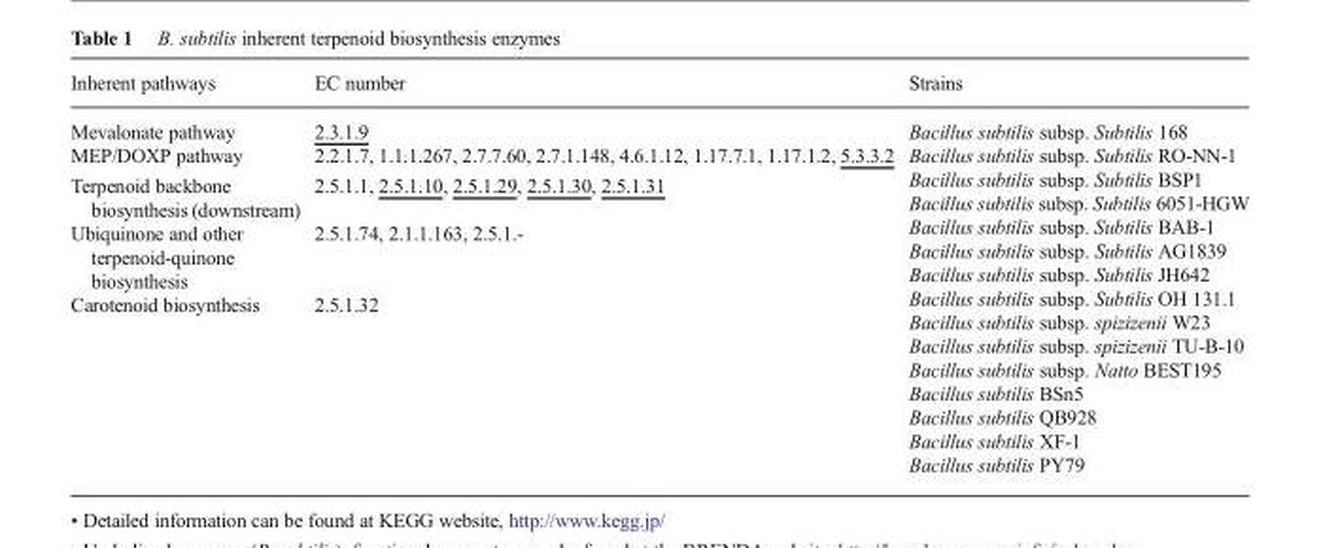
<table><thead><tr><td>Inherent pathways</td><td>EC number</td><td>Strains</td></tr></thead><tbody><tr><td>Mevalonate pathway</td><td>2.3.1.9</td><td rowspan="5">Bacillus subtilis subsp. Subtilis 168 Bacillus subtilis subsp. Subtilis RO-NN-1 Bacillus subtilis subsp. Subtilis BSP1 Bacillus subtilis subsp. Subtilis 6051-HGW Bacillus subtilis subsp. Subtilis BAB-1 Bacillus subtilis subsp. Subtilis AG1839 Bacillus subtilis subsp. Subtilis JH642 Bacillus subtilis subsp. Subtilis OH 131.1 Bacillus subtilis subsp. spizizenii W23 Bacillus subtilis subsp. spizizenii TU-B-10 Bacillus subtilis subsp. Natto BEST195 Bacillus subtilis BSn5 Bacillus subtilis QB928 Bacillus subtilis XF-1 Bacillus subtilis PY79</td></tr><tr><td>MEP/DOXP pathway</td><td>2.2.1.7, 1.1.1.267, 2.7.7.60, 2.7.1.148, 4.6.1.12, 1.17.7.1, 1.17.1.2, 5.3.3.2</td></tr><tr><td>Terpenoid backbone biosynthesis (downstream)</td><td>2.5.1.1, 2.5.1.10, 2.5.1.29, 2.5.1.30, 2.5.1.31</td></tr><tr><td>Ubiquinone and other terpenoid-quinone biosynthesis</td><td>2.5.1.74, 2.1.1.163, 2.5.1.-</td></tr><tr><td>Carotenoid biosynthesis</td><td>2.5.1.32</td></tr></tbody></table>